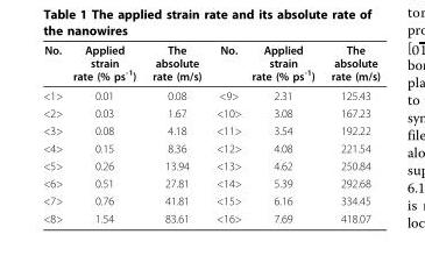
<table><thead><tr><td>No.</td><td>Applied strain rate (% ps<sup>-1</sup>)</td><td>The absolute rate (m/s)</td><td>No.</td><td>Applied strain rate (% ps<sup>-1</sup>)</td><td>The absolute rate (m/s)</td></tr></thead><tbody><tr><td>&lt;1&gt;</td><td>0.01</td><td>0.08</td><td>&lt;9&gt;</td><td>2.31</td><td>125.43</td></tr><tr><td>&lt;2&gt;</td><td>0.03</td><td>1.67</td><td>&lt;10&gt;</td><td>3.08</td><td>167.23</td></tr><tr><td>&lt;3&gt;</td><td>0.08</td><td>4.18</td><td>&lt;11&gt;</td><td>3.54</td><td>192.22</td></tr><tr><td>&lt;4&gt;</td><td>0.15</td><td>8.36</td><td>&lt;12&gt;</td><td>4.08</td><td>221.54</td></tr><tr><td>&lt;5&gt;</td><td>0.26</td><td>13.94</td><td>&lt;13&gt;</td><td>4.62</td><td>250.84</td></tr><tr><td>&lt;6&gt;</td><td>0.51</td><td>27.81</td><td>&lt;14&gt;</td><td>5.39</td><td>292.68</td></tr><tr><td>&lt;7&gt;</td><td>0.76</td><td>41.81</td><td>&lt;15&gt;</td><td>6.16</td><td>334.45</td></tr><tr><td>&lt;8&gt;</td><td>1.54</td><td>83.61</td><td>&lt;16&gt;</td><td>7.69</td><td>418.07</td></tr></tbody></table>